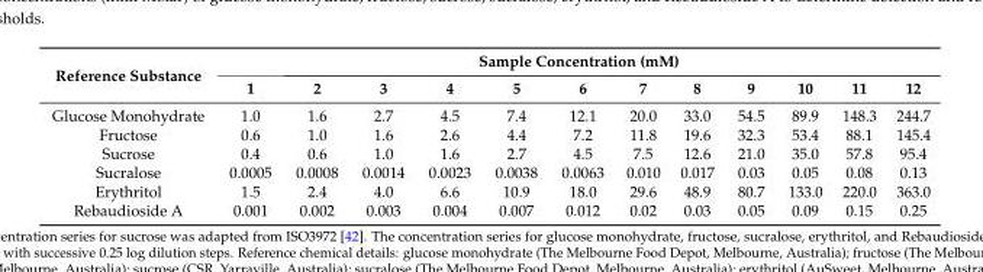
<table><thead><tr><td rowspan="2">Reference Substance</td><td colspan="12">Sample Concentration (mM)</td></tr><tr><td>1</td><td>2</td><td>3</td><td>4</td><td>5</td><td>6</td><td>7</td><td>8</td><td>9</td><td>10</td><td>11</td><td>12</td></tr></thead><tbody><tr><td>Glucose Monohydrate</td><td>1.0</td><td>1.6</td><td>2.7</td><td>4.5</td><td>7.4</td><td>12.1</td><td>20.0</td><td>33.0</td><td>54.5</td><td>89.9</td><td>148.3</td><td>244.7</td></tr><tr><td>Fructose</td><td>0.6</td><td>1.0</td><td>1.6</td><td>2.6</td><td>4.4</td><td>7.2</td><td>11.8</td><td>19.6</td><td>32.3</td><td>53.4</td><td>88.1</td><td>145.4</td></tr><tr><td>Sucrose</td><td>0.4</td><td>0.6</td><td>1.0</td><td>1.6</td><td>2.7</td><td>4.5</td><td>7.5</td><td>12.6</td><td>21.0</td><td>35.0</td><td>57.8</td><td>95.4</td></tr><tr><td>Sucralose</td><td>0.0005</td><td>0.0008</td><td>0.0014</td><td>0.0023</td><td>0.0038</td><td>0.0063</td><td>0.010</td><td>0.017</td><td>0.03</td><td>0.05</td><td>0.08</td><td>0.13</td></tr><tr><td>Erythritol</td><td>1.5</td><td>2.4</td><td>4.0</td><td>6.6</td><td>10.9</td><td>18.0</td><td>29.6</td><td>48.9</td><td>80.7</td><td>133.0</td><td>220.0</td><td>363.0</td></tr><tr><td>Rebaudioside A</td><td>0.001</td><td>0.002</td><td>0.003</td><td>0.004</td><td>0.007</td><td>0.012</td><td>0.02</td><td>0.03</td><td>0.05</td><td>0.09</td><td>0.15</td><td>0.25</td></tr></tbody></table>